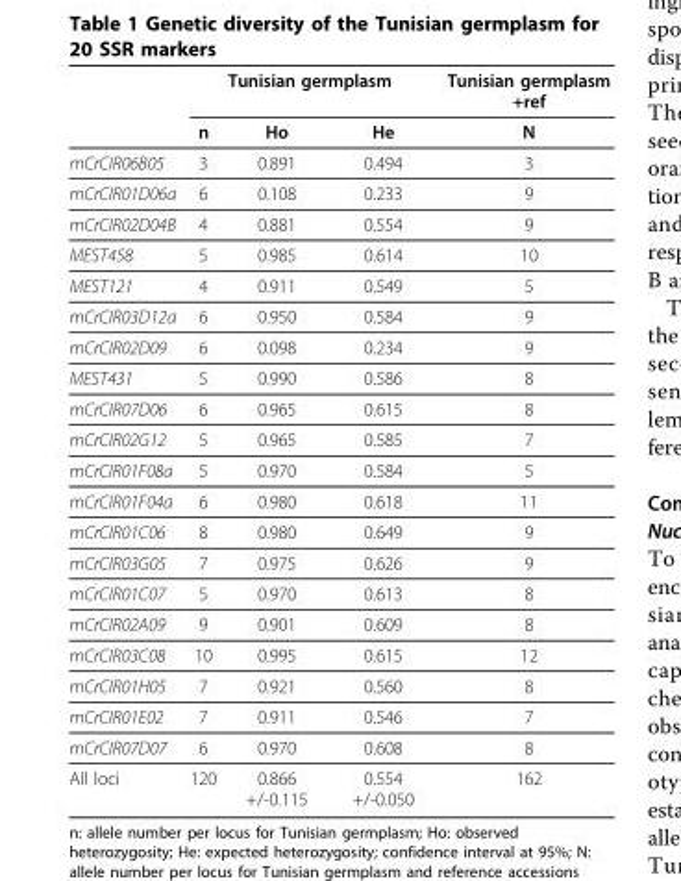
<table><thead><tr><td rowspan="2"></td><td colspan="3">Tunisian germplasm</td><td rowspan="2">Tunisian germplasm +ref N</td></tr><tr><td>n</td><td>Ho</td><td>He</td></tr></thead><tbody><tr><td>mCrCIR06B05</td><td>3</td><td>0.891</td><td>0.494</td><td>3</td></tr><tr><td>mCrCIR01D06a</td><td>6</td><td>0.108</td><td>0.233</td><td>9</td></tr><tr><td>mCrCIR02D04B</td><td>4</td><td>0.881</td><td>0.554</td><td>9</td></tr><tr><td>MEST458</td><td>5</td><td>0.985</td><td>0.614</td><td>10</td></tr><tr><td>MEST121</td><td>4</td><td>0.911</td><td>0.549</td><td>5</td></tr><tr><td>mCrCIR03D12a</td><td>6</td><td>0.950</td><td>0.584</td><td>9</td></tr><tr><td>mCrCIR02D09</td><td>6</td><td>0.098</td><td>0.234</td><td>9</td></tr><tr><td>MEST431</td><td>5</td><td>0.990</td><td>0.586</td><td>8</td></tr><tr><td>mCrCIR07D06</td><td>6</td><td>0.965</td><td>0.615</td><td>8</td></tr><tr><td>mCrCIR02G12</td><td>5</td><td>0.965</td><td>0.585</td><td>7</td></tr><tr><td>mCrCIR01F08a</td><td>5</td><td>0.970</td><td>0.584</td><td>5</td></tr><tr><td>mCrCIR01F04a</td><td>6</td><td>0.980</td><td>0.618</td><td>11</td></tr><tr><td>mCrCIR01C06</td><td>8</td><td>0.980</td><td>0.649</td><td>9</td></tr><tr><td>mCrCIR03G05</td><td>7</td><td>0.975</td><td>0.626</td><td>9</td></tr><tr><td>mCrCIR01C07</td><td>5</td><td>0.970</td><td>0.613</td><td>8</td></tr><tr><td>mCrCIR02A09</td><td>9</td><td>0.901</td><td>0.609</td><td>8</td></tr><tr><td>mCrCIR03C08</td><td>10</td><td>0.995</td><td>0.615</td><td>12</td></tr><tr><td>mCrCIR01H05</td><td>7</td><td>0.921</td><td>0.560</td><td>8</td></tr><tr><td>mCrCIR01E02</td><td>7</td><td>0.911</td><td>0.546</td><td>7</td></tr><tr><td>mCrCIR07D07</td><td>6</td><td>0.970</td><td>0.608</td><td>8</td></tr><tr><td>All loci</td><td>120</td><td>0.866 +/-0.115</td><td>0.554 +/-0.050</td><td>162</td></tr></tbody></table>